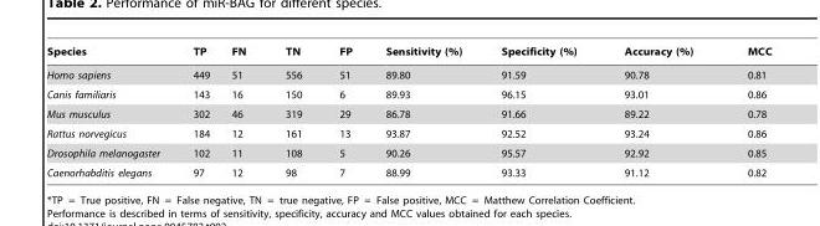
<table><thead><tr><td>Species</td><td>TP</td><td>FN</td><td>TN</td><td>FP</td><td>Sensitivity (%)</td><td>Specificity (%)</td><td>Accuracy (%)</td><td>MCC</td></tr></thead><tbody><tr><td>Homo sapiens</td><td>449</td><td>51</td><td>556</td><td>51</td><td>89.80</td><td>91.59</td><td>90.78</td><td>0.81</td></tr><tr><td>Canis familiaris</td><td>143</td><td>16</td><td>150</td><td>6</td><td>89.93</td><td>96.15</td><td>93.01</td><td>0.86</td></tr><tr><td>Mus musculus</td><td>302</td><td>46</td><td>319</td><td>29</td><td>86.78</td><td>91.66</td><td>89.22</td><td>0.78</td></tr><tr><td>Rattus norvegicus</td><td>184</td><td>12</td><td>161</td><td>13</td><td>93.87</td><td>92.52</td><td>93.24</td><td>0.86</td></tr><tr><td>Drosophila melanogaster</td><td>102</td><td>11</td><td>108</td><td>5</td><td>90.26</td><td>95.57</td><td>92.92</td><td>0.85</td></tr><tr><td>Caenorhabditis elegans</td><td>97</td><td>12</td><td>98</td><td>7</td><td>88.99</td><td>93.33</td><td>91.12</td><td>0.82</td></tr></tbody></table>